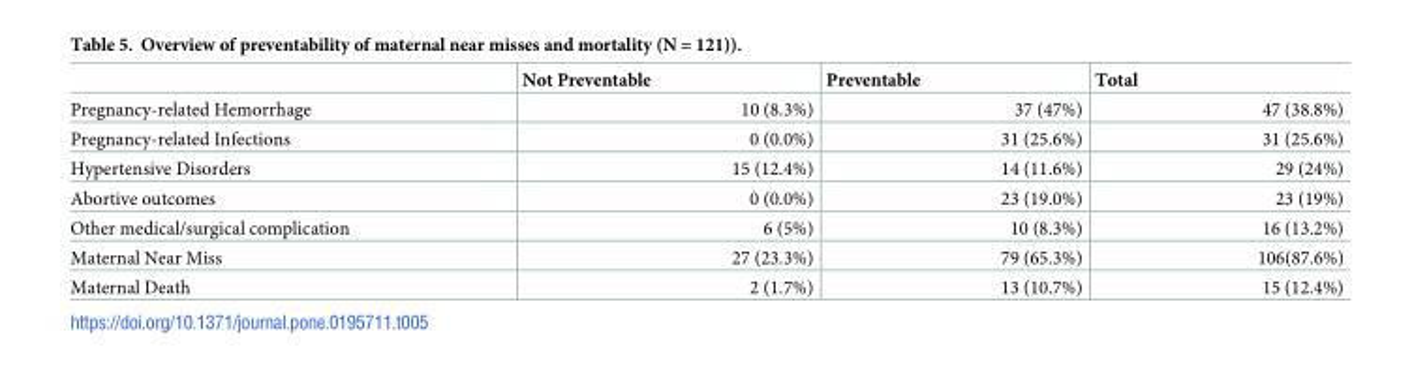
<table><thead><tr><td></td><td>Not Preventable</td><td>Preventable</td><td>Total</td></tr></thead><tbody><tr><td>Pregnancy-related Hemorrhage</td><td>10 (8.3%)</td><td>37 (47%)</td><td>47 (38.8%)</td></tr><tr><td>Pregnancy-related Infections</td><td>0 (0.0%)</td><td>31 (25.6%)</td><td>31 (25.6%)</td></tr><tr><td>Hypertensive Disorders</td><td>15 (12.4%)</td><td>14 (11.6%)</td><td>29 (24%)</td></tr><tr><td>Abortive outcomes</td><td>0 (0.0%)</td><td>23 (19.0%)</td><td>23 (19%)</td></tr><tr><td>Other medical/surgical complication</td><td>6 (5%)</td><td>10 (8.3%)</td><td>16 (13.2%)</td></tr><tr><td>Maternal Near Miss</td><td>27 (23.3%)</td><td>79 (65.3%)</td><td>106(87.6%)</td></tr><tr><td>Maternal Death</td><td>2 (1.7%)</td><td>13 (10.7%)</td><td>15 (12.4%)</td></tr></tbody></table>